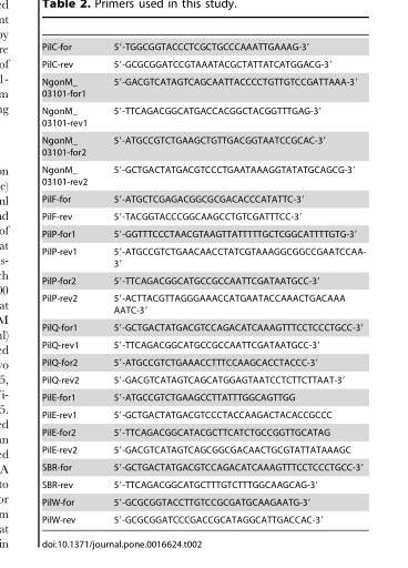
<table><tbody><tr><td>PilC-for</td><td>5′-TGGCGGTACCCTCGCTGCCCAAATTGAAAG-3′</td></tr><tr><td>PilC-rev</td><td>5′-GCGCGGATCCGTAAATACGCTATTATCATGGACG-3′</td></tr><tr><td>NgonM_ 03101-for1</td><td>5′-GACGTCATAGTCAGCAATTACCCCTGTTGTCCGATTAAA-3′</td></tr><tr><td>NgonM_ 03101-rev1</td><td>5′-TTCAGACGGCATGACCACGGCTACGGTTTGAG-3′</td></tr><tr><td>NgonM_ 03101-for2</td><td>5′-ATGCCGTCTGAAGCTGTTGACGGTAATCCGCAC-3′</td></tr><tr><td>NgonM_ 03101-rev2</td><td>5′-GCTGACTATGACGTCCCTGAATAAAGGTATATGCAGCG-3′</td></tr><tr><td>PilF-for</td><td>5′-ATGCTCGAGACGGCGCGACACCCATATTC-3′</td></tr><tr><td>PilF-rev</td><td>5′-TACGGTACCCGGCAAGCCTGTCGATTTCC-3′</td></tr><tr><td>PilP-for1</td><td>5′-GGTTTCCCTAACGTAAGTTATTTTTGCTCGGCATTTTGTG-3′</td></tr><tr><td>PilP-rev1</td><td>5′-ATGCCGTCTGAACAACCTATCGTAAAGGCGGCCGAATCCAA- 3′</td></tr><tr><td>PilP-for2</td><td>5′-TTCAGACGGCATGCCGCCAATTCGATAATGCC-3′</td></tr><tr><td>PilP-rev2</td><td>5′-ACTTACGTTAGGGAAACCATGAATACCAAACTGACAAA AATC-3′</td></tr><tr><td>PilQ-for1</td><td>5′-GCTGACTATGACGTCCAGACATCAAAGTTTCCTCCCTGCC-3′</td></tr><tr><td>PilQ-rev1</td><td>5′-TTCAGACGGCATGCCGCCAATTCGATAATGCC-3′</td></tr><tr><td>PilQ-for2</td><td>5′-ATGCCGTCTGAAACCTTTCCAAGCACCTACCC-3′</td></tr><tr><td>PilQ-rev2</td><td>5′-GACGTCATAGTCAGCATGGAGTAATCCTCTTCTTAAT-3′</td></tr><tr><td>PilE-for1</td><td>5′-ATGCCGTCTGAAGCCTTATTTGGCAGTTGG</td></tr><tr><td>PilE-rev1</td><td>5′-GCTGACTATGACGTCCCTACCAAGACTACACCGCCC</td></tr><tr><td>PilE-for2</td><td>5′-TTCAGACGGCATACGCTTCATCTGCCGGTTGCATAG</td></tr><tr><td>PilE-rev2</td><td>5′-GACGTCATAGTCAGCGGCGACAACTGCGTATTATAAAGC</td></tr><tr><td>SBR-for</td><td>5′-GCTGACTATGACGTCCAGACATCAAAGTTTCCTCCCTGCC-3′</td></tr><tr><td>SBR-rev</td><td>5′-TTCAGACGGCATGCTTTGTCTTTGGCAAGCAG-3′</td></tr><tr><td>PilW-for</td><td>5′-GCGCGGTACCTTGTCCGCGATGCAAGAATG-3′</td></tr><tr><td>PilW-rev</td><td>5′-GCGCGGATCCCGACCGCATAGGCATTGACCAC-3′</td></tr></tbody></table>